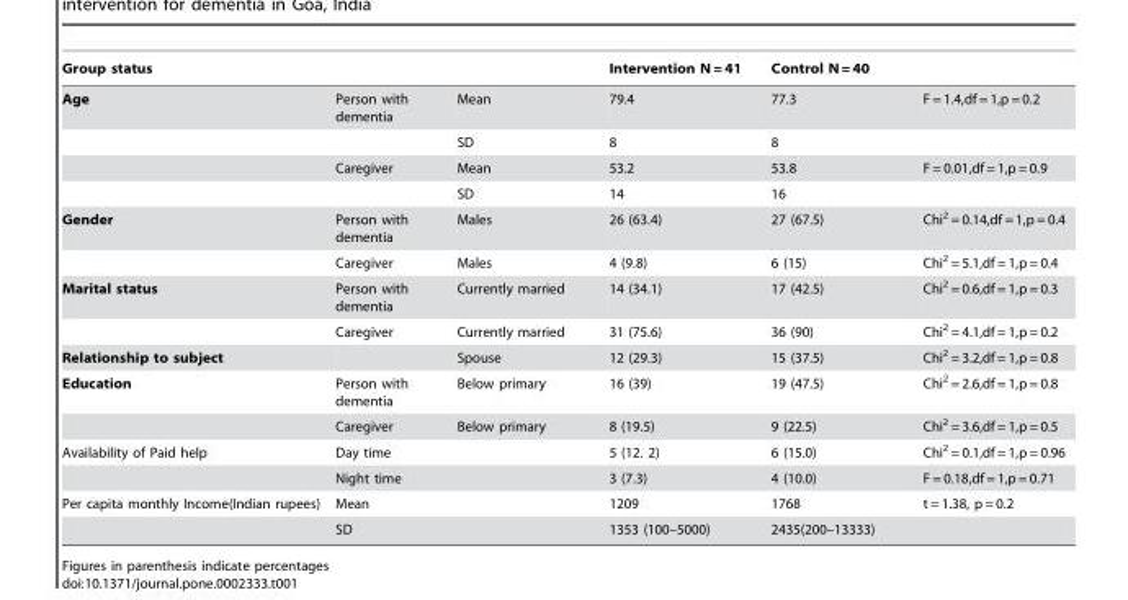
<table><thead><tr><td colspan="3">Group status</td><td rowspan="2">Intervention N = 41 79.4</td><td rowspan="2">Control N = 40 77.3</td><td rowspan="2">F = 1.4,df = 1,p = 0.2</td></tr><tr><td>Age</td><td>Person with dementia</td><td>Mean</td></tr></thead><tbody><tr><td></td><td></td><td>SD</td><td>8</td><td>8</td><td></td></tr><tr><td></td><td>Caregiver</td><td>Mean</td><td>53.2</td><td>53.8</td><td>F = 0.01,df = 1,p = 0.9</td></tr><tr><td></td><td></td><td>SD</td><td>14</td><td>16</td><td></td></tr><tr><td rowspan="2">Gender</td><td>Person with dementia</td><td>Males</td><td>26 (63.4)</td><td>27 (67.5)</td><td>Chi<sup>2</sup> = 0.14,df = 1,p = 0.4</td></tr><tr><td>Caregiver</td><td>Males</td><td>4 (9.8)</td><td>6 (15)</td><td>Chi<sup>2</sup> = 5.1,df = 1,p = 0.4</td></tr><tr><td rowspan="2">Marital status</td><td>Person with dementia</td><td>Currently married</td><td>14 (34.1)</td><td>17 (42.5)</td><td>Chi<sup>2</sup> = 0.6,df = 1,p = 0.3</td></tr><tr><td>Caregiver</td><td>Currently married</td><td>31 (75.6)</td><td>36 (90)</td><td>Chi<sup>2</sup> = 4.1,df = 1,p = 0.2</td></tr><tr><td>Relationship to subject</td><td></td><td>Spouse</td><td>12 (29.3)</td><td>15 (37.5)</td><td>Chi<sup>2</sup> = 3.2,df = 1,p = 0.8</td></tr><tr><td rowspan="2">Education</td><td>Person with dementia</td><td>Below primary</td><td>16 (39)</td><td>19 (47.5)</td><td>Chi<sup>2</sup> = 2.6,df = 1,p = 0.8</td></tr><tr><td>Caregiver</td><td>Below primary</td><td>8 (19.5)</td><td>9 (22.5)</td><td>Chi<sup>2</sup> = 3.6,df = 1,p = 0.5</td></tr><tr><td rowspan="2">Availability of Paid help</td><td colspan="2">Day time</td><td>5 (12. 2)</td><td>6 (15.0)</td><td>Chi<sup>2</sup> = 0.1,df = 1,p = 0.96</td></tr><tr><td colspan="2">Night time</td><td>3 (7.3)</td><td>4 (10.0)</td><td>F = 0.18,df = 1,p = 0.71</td></tr><tr><td rowspan="2">Per capita monthly Income(Indian rupees)</td><td colspan="2">Mean</td><td>1209</td><td>1768</td><td>t = 1.38, p = 0.2</td></tr><tr><td colspan="2">SD</td><td>1353 (100–5000)</td><td>2435(200–13333)</td><td></td></tr></tbody></table>